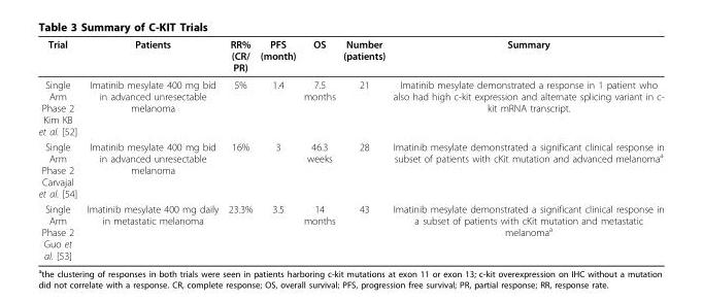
<table><thead><tr><td>Trial</td><td>Patients</td><td>RR% (CR/ PR)</td><td>PFS (month)</td><td>OS</td><td>Number (patients)</td><td>Summary</td></tr></thead><tbody><tr><td>Single Arm Phase 2 Kim KB et al. [52]</td><td>Imatinib mesylate 400 mg bid in advanced unresectable melanoma</td><td>5%</td><td>1.4</td><td>7.5 months</td><td>21</td><td>Imatinib mesylate demonstrated a response in 1 patient who also had high c-kit expression and alternate splicing variant in c- kit mRNA transcript.</td></tr><tr><td>Single Arm Phase 2 Carvajal et al. [54]</td><td>Imatinib mesylate 400 mg bid in advanced unresectable melanoma</td><td>16%</td><td>3</td><td>46.3 weeks</td><td>28</td><td>Imatinib mesylate demonstrated a significant clinical response in subset of patients with cKit mutation and advanced melanoma<sup>a</sup></td></tr><tr><td>Single Arm Phase 2 Guo et al. [53]</td><td>Imatinib mesylate 400 mg daily in metastatic melanoma</td><td>23.3%</td><td>3.5</td><td>14 months</td><td>43</td><td>Imatinib mesylate demonstrated a significant clinical response in a subset of patients with cKit mutation and metastatic melanoma<sup>a</sup></td></tr></tbody></table>